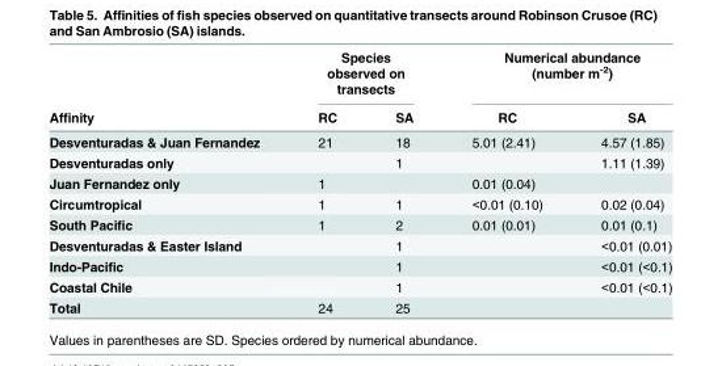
<table><thead><tr><td rowspan="2">Affinity</td><td colspan="2">Species observed on transects</td><td colspan="2">Numerical abundance (number m<sup>-2</sup>)</td></tr><tr><td>RC</td><td>SA</td><td>RC</td><td>SA</td></tr></thead><tbody><tr><td>Desventuradas &amp; Juan Fernandez</td><td>21</td><td>18</td><td>5.01 (2.41)</td><td>4.57 (1.85)</td></tr><tr><td>Desventuradas only</td><td></td><td>1</td><td></td><td>1.11 (1.39)</td></tr><tr><td>Juan Fernandez only</td><td>1</td><td></td><td>0.01 (0.04)</td><td></td></tr><tr><td>Circumtropical</td><td>1</td><td>1</td><td>&lt;0.01 (0.10)</td><td>0.02 (0.04)</td></tr><tr><td>South Pacific</td><td>1</td><td>2</td><td>0.01 (0.01)</td><td>0.01 (0.1)</td></tr><tr><td>Desventuradas &amp; Easter Island</td><td></td><td>1</td><td></td><td>&lt;0.01 (0.01)</td></tr><tr><td>Indo-Pacific</td><td></td><td>1</td><td></td><td>&lt;0.01 (&lt;0.1)</td></tr><tr><td>Coastal Chile</td><td></td><td>1</td><td></td><td>&lt;0.01 (&lt;0.1)</td></tr><tr><td>Total</td><td>24</td><td>25</td><td></td><td></td></tr></tbody></table>